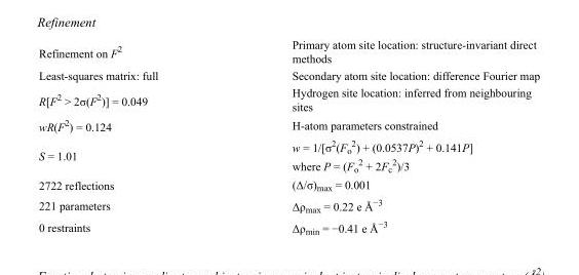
<table><tbody><tr><td>Refinement on F<sup>2</sup></td><td>Primary atom site location: structure-invariant direct methods</td></tr><tr><td>Least-squares matrix: full</td><td>Secondary atom site location: difference Fourier map</td></tr><tr><td>R[F<sup>2</sup> &gt; 2σ(F<sup>2</sup>)] = 0.049</td><td>Hydrogen site location: inferred from neighbouring sites</td></tr><tr><td>wR(F<sup>2</sup>) = 0.124</td><td>H-atom parameters constrained</td></tr><tr><td>S = 1.01</td><td>w = 1/[σ<sup>2</sup>(F<sub>o</sub> <sup>2</sup>) + (0.0537P)<sup>2</sup> + 0.141P] where P = (F<sub>o</sub> <sup>2</sup> + 2F<sub>c</sub> <sup>2</sup>)/3</td></tr><tr><td>2722 reflections</td><td>(Δ/σ)<sub>max</sub> = 0.001</td></tr><tr><td>221 parameters</td><td>Δρ<sub>max</sub> = 0.22 e Å<sup>−3</sup></td></tr><tr><td>0 restraints</td><td>Δρ<sub>min</sub> = −0.41 e Å<sup>−3</sup></td></tr></tbody></table>